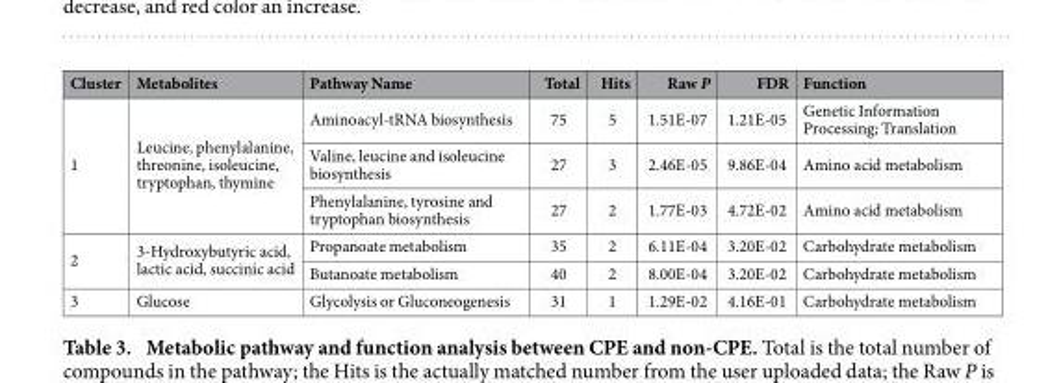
<table><thead><tr><td>Cluster</td><td>Metabolites</td><td>Pathway Name</td><td>Total</td><td>Hits</td><td>Raw P</td><td>FDR</td><td>Function</td></tr></thead><tbody><tr><td rowspan="3">1</td><td rowspan="3">Leucine, phenylalanine, threonine, isoleucine, tryptophan, thymine</td><td>Aminoacyl-tRNA biosynthesis</td><td>75</td><td>5</td><td>1.51E-07</td><td>1.21E-05</td><td>Genetic Information Processing; Translation</td></tr><tr><td>Valine, leucine and isoleucine biosynthesis</td><td>27</td><td>3</td><td>2.46E-05</td><td>9.86E-04</td><td>Amino acid metabolism</td></tr><tr><td>Phenylalanine, tyrosine and tryptophan biosynthesis</td><td>27</td><td>2</td><td>1.77E-03</td><td>4.72E-02</td><td>Amino acid metabolism</td></tr><tr><td rowspan="2">2</td><td rowspan="2">3-Hydroxybutyric acid, lactic acid, succinic acid</td><td>Propanoate metabolism</td><td>35</td><td>2</td><td>6.11E-04</td><td>3.20E-02</td><td>Carbohydrate metabolism</td></tr><tr><td>Butanoate metabolism</td><td>40</td><td>2</td><td>8.00E-04</td><td>3.20E-02</td><td>Carbohydrate metabolism</td></tr><tr><td>3</td><td>Glucose</td><td>Glycolysis or Gluconeogenesis</td><td>31</td><td>1</td><td>1.29E-02</td><td>4.16E-01</td><td>Carbohydrate metabolism</td></tr></tbody></table>